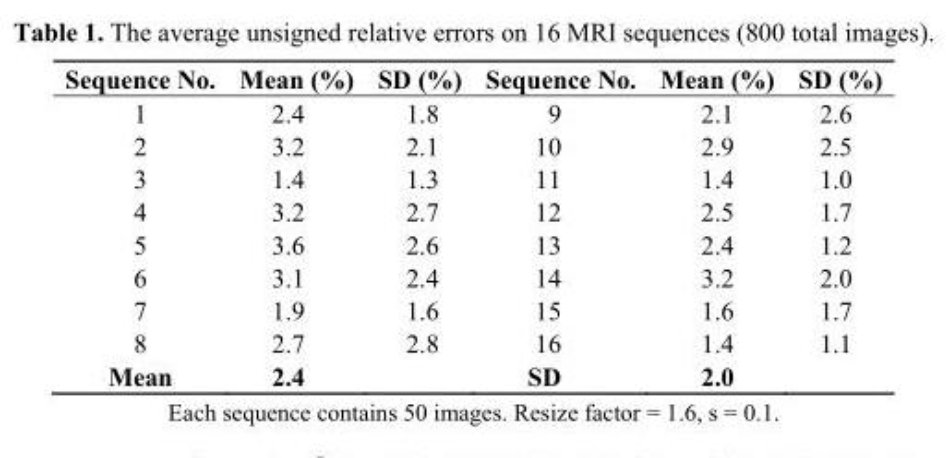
<table><thead><tr><td>Sequence No.</td><td>Mean (%)</td><td>SD (%)</td><td>Sequence No.</td><td>Mean (%)</td><td>SD (%)</td></tr></thead><tbody><tr><td>1</td><td>2.4</td><td>1.8</td><td>9</td><td>2.1</td><td>2.6</td></tr><tr><td>2</td><td>3.2</td><td>2.1</td><td>10</td><td>2.9</td><td>2.5</td></tr><tr><td>3</td><td>1.4</td><td>1.3</td><td>11</td><td>1.4</td><td>1.0</td></tr><tr><td>4</td><td>3.2</td><td>2.7</td><td>12</td><td>2.5</td><td>1.7</td></tr><tr><td>5</td><td>3.6</td><td>2.6</td><td>13</td><td>2.4</td><td>1.2</td></tr><tr><td>6</td><td>3.1</td><td>2.4</td><td>14</td><td>3.2</td><td>2.0</td></tr><tr><td>7</td><td>1.9</td><td>1.6</td><td>15</td><td>1.6</td><td>1.7</td></tr><tr><td>8</td><td>2.7</td><td>2.8</td><td>16</td><td>1.4</td><td>1.1</td></tr><tr><td>Mean</td><td>2.4</td><td></td><td>SD</td><td>2.0</td><td></td></tr></tbody></table>